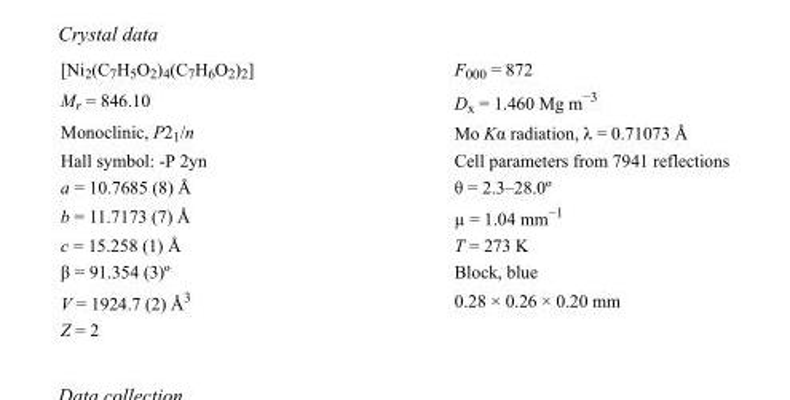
<table><tbody><tr><td>[Ni<sub>2</sub>(C<sub>7</sub>H<sub>5</sub>O<sub>2</sub>)<sub>4</sub>(C<sub>7</sub>H<sub>6</sub>O<sub>2</sub>)<sub>2</sub>]</td><td>F000 = 872</td></tr><tr><td>M<sub>r</sub> = 846.10</td><td>D<sub>x</sub> = 1.460 Mg m<sup>−3</sup></td></tr><tr><td>Monoclinic, P2<sub>1</sub>/n</td><td>Mo Kα radiation, λ = 0.71073 Å</td></tr><tr><td>Hall symbol: -P 2yn</td><td>Cell parameters from 7941 reflections</td></tr><tr><td>a = 10.7685 (8) Å</td><td>θ = 2.3–28.0º</td></tr><tr><td>b = 11.7173 (7) Å</td><td>µ = 1.04 mm<sup>−1</sup></td></tr><tr><td>c = 15.258 (1) Å</td><td>T = 273 K</td></tr><tr><td>β = 91.354 (3)º</td><td>Block, blue</td></tr><tr><td>V = 1924.7 (2) Å<sup>3</sup></td><td>0.28 × 0.26 × 0.20 mm</td></tr><tr><td>Z = 2</td><td></td></tr></tbody></table>